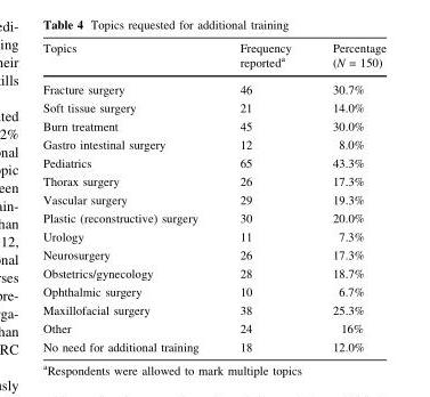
<table><thead><tr><td>Topics</td><td>Frequency reported<sup>a</sup></td><td>Percentage (N = 150)</td></tr></thead><tbody><tr><td>Fracture surgery</td><td>46</td><td>30.7%</td></tr><tr><td>Soft tissue surgery</td><td>21</td><td>14.0%</td></tr><tr><td>Burn treatment</td><td>45</td><td>30.0%</td></tr><tr><td>Gastro intestinal surgery</td><td>12</td><td>8.0%</td></tr><tr><td>Pediatrics</td><td>65</td><td>43.3%</td></tr><tr><td>Thorax surgery</td><td>26</td><td>17.3%</td></tr><tr><td>Vascular surgery</td><td>29</td><td>19.3%</td></tr><tr><td>Plastic (reconstructive) surgery</td><td>30</td><td>20.0%</td></tr><tr><td>Urology</td><td>11</td><td>7.3%</td></tr><tr><td>Neurosurgery</td><td>26</td><td>17.3%</td></tr><tr><td>Obstetrics/gynecology</td><td>28</td><td>18.7%</td></tr><tr><td>Ophthalmic surgery</td><td>10</td><td>6.7%</td></tr><tr><td>Maxillofacial surgery</td><td>38</td><td>25.3%</td></tr><tr><td>Other</td><td>24</td><td>16%</td></tr><tr><td>No need for additional training</td><td>18</td><td>12.0%</td></tr></tbody></table>